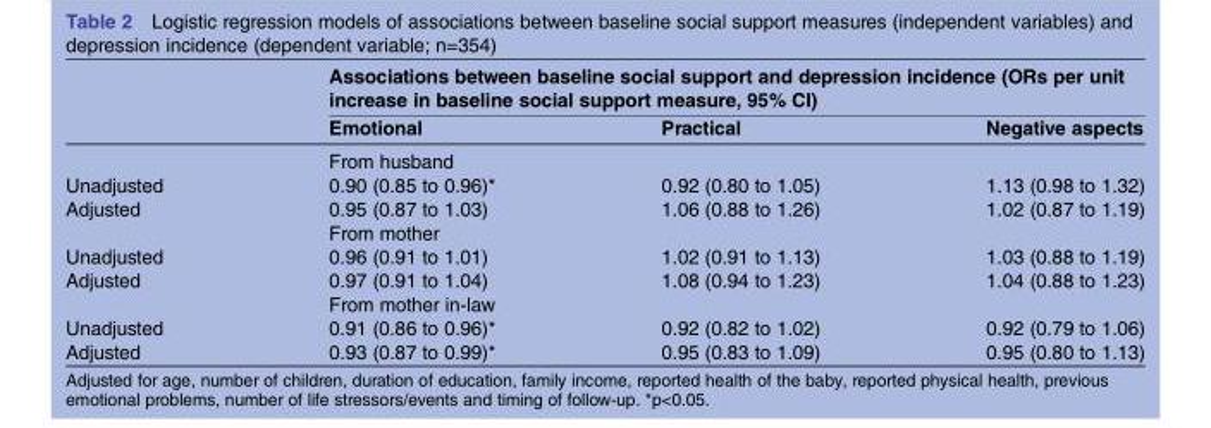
<table><thead><tr><td rowspan="2"></td><td colspan="3">Associations between baseline social support and depression incidence (ORs per unit increase in baseline social support measure, 95% CI)</td></tr><tr><td>Emotional</td><td>Practical</td><td>Negative aspects</td></tr></thead><tbody><tr><td></td><td colspan="3">From husband</td></tr><tr><td>Unadjusted</td><td>0.90 (0.85 to 0.96)*</td><td>0.92 (0.80 to 1.05)</td><td>1.13 (0.98 to 1.32)</td></tr><tr><td rowspan="2">Adjusted</td><td>0.95 (0.87 to 1.03)</td><td>1.06 (0.88 to 1.26)</td><td>1.02 (0.87 to 1.19)</td></tr><tr><td colspan="3">From mother</td></tr><tr><td>Unadjusted</td><td>0.96 (0.91 to 1.01)</td><td>1.02 (0.91 to 1.13)</td><td>1.03 (0.88 to 1.19)</td></tr><tr><td rowspan="2">Adjusted</td><td>0.97 (0.91 to 1.04)</td><td>1.08 (0.94 to 1.23)</td><td>1.04 (0.88 to 1.23)</td></tr><tr><td colspan="3">From mother in-law</td></tr><tr><td>Unadjusted</td><td>0.91 (0.86 to 0.96)*</td><td>0.92 (0.82 to 1.02)</td><td>0.92 (0.79 to 1.06)</td></tr><tr><td>Adjusted</td><td>0.93 (0.87 to 0.99)*</td><td>0.95 (0.83 to 1.09)</td><td>0.95 (0.80 to 1.13)</td></tr></tbody></table>